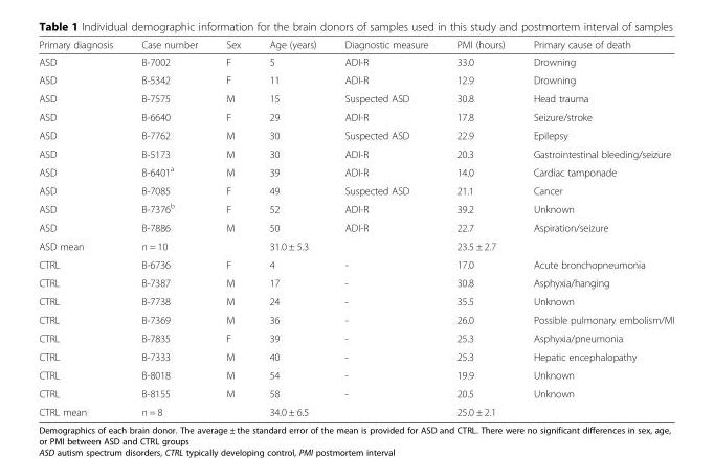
<table><thead><tr><td>Primary diagnosis</td><td>Case number</td><td>Sex</td><td>Age (years)</td><td>Diagnostic measure</td><td>PMI (hours)</td><td>Primary cause of death</td></tr></thead><tbody><tr><td>ASD</td><td>B-7002</td><td>F</td><td>5</td><td>ADI-R</td><td>33.0</td><td>Drowning</td></tr><tr><td>ASD</td><td>B-5342</td><td>F</td><td>11</td><td>ADI-R</td><td>12.9</td><td>Drowning</td></tr><tr><td>ASD</td><td>B-7575</td><td>M</td><td>15</td><td>Suspected ASD</td><td>30.8</td><td>Head trauma</td></tr><tr><td>ASD</td><td>B-6640</td><td>F</td><td>29</td><td>ADI-R</td><td>17.8</td><td>Seizure/stroke</td></tr><tr><td>ASD</td><td>B-7762</td><td>M</td><td>30</td><td>Suspected ASD</td><td>22.9</td><td>Epilepsy</td></tr><tr><td>ASD</td><td>B-5173</td><td>M</td><td>30</td><td>ADI-R</td><td>20.3</td><td>Gastrointestinal bleeding/seizure</td></tr><tr><td>ASD</td><td>B-6401<sup>a</sup></td><td>M</td><td>39</td><td>ADI-R</td><td>14.0</td><td>Cardiac tamponade</td></tr><tr><td>ASD</td><td>B-7085</td><td>F</td><td>49</td><td>Suspected ASD</td><td>21.1</td><td>Cancer</td></tr><tr><td>ASD</td><td>B-7376<sup>b</sup></td><td>F</td><td>52</td><td>ADI-R</td><td>39.2</td><td>Unknown</td></tr><tr><td>ASD</td><td>B-7886</td><td>M</td><td>50</td><td>ADI-R</td><td>22.7</td><td>Aspiration/seizure</td></tr><tr><td>ASD mean</td><td>n = 10</td><td></td><td>31.0 ± 5.3</td><td></td><td>23.5 ± 2.7</td><td></td></tr><tr><td>CTRL</td><td>B-6736</td><td>F</td><td>4</td><td>-</td><td>17.0</td><td>Acute bronchopneumonia</td></tr><tr><td>CTRL</td><td>B-7387</td><td>M</td><td>17</td><td>-</td><td>30.8</td><td>Asphyxia/hanging</td></tr><tr><td>CTRL</td><td>B-7738</td><td>M</td><td>24</td><td>-</td><td>35.5</td><td>Unknown</td></tr><tr><td>CTRL</td><td>B-7369</td><td>M</td><td>36</td><td>-</td><td>26.0</td><td>Possible pulmonary embolism/MI</td></tr><tr><td>CTRL</td><td>B-7835</td><td>F</td><td>39</td><td>-</td><td>25.3</td><td>Asphyxia/pneumonia</td></tr><tr><td>CTRL</td><td>B-7333</td><td>M</td><td>40</td><td>-</td><td>25.3</td><td>Hepatic encephalopathy</td></tr><tr><td>CTRL</td><td>B-8018</td><td>M</td><td>54</td><td>-</td><td>19.9</td><td>Unknown</td></tr><tr><td>CTRL</td><td>B-8155</td><td>M</td><td>58</td><td>-</td><td>20.5</td><td>Unknown</td></tr><tr><td>CTRL mean</td><td>n = 8</td><td></td><td>34.0 ± 6.5</td><td></td><td>25.0 ± 2.1</td><td></td></tr></tbody></table>